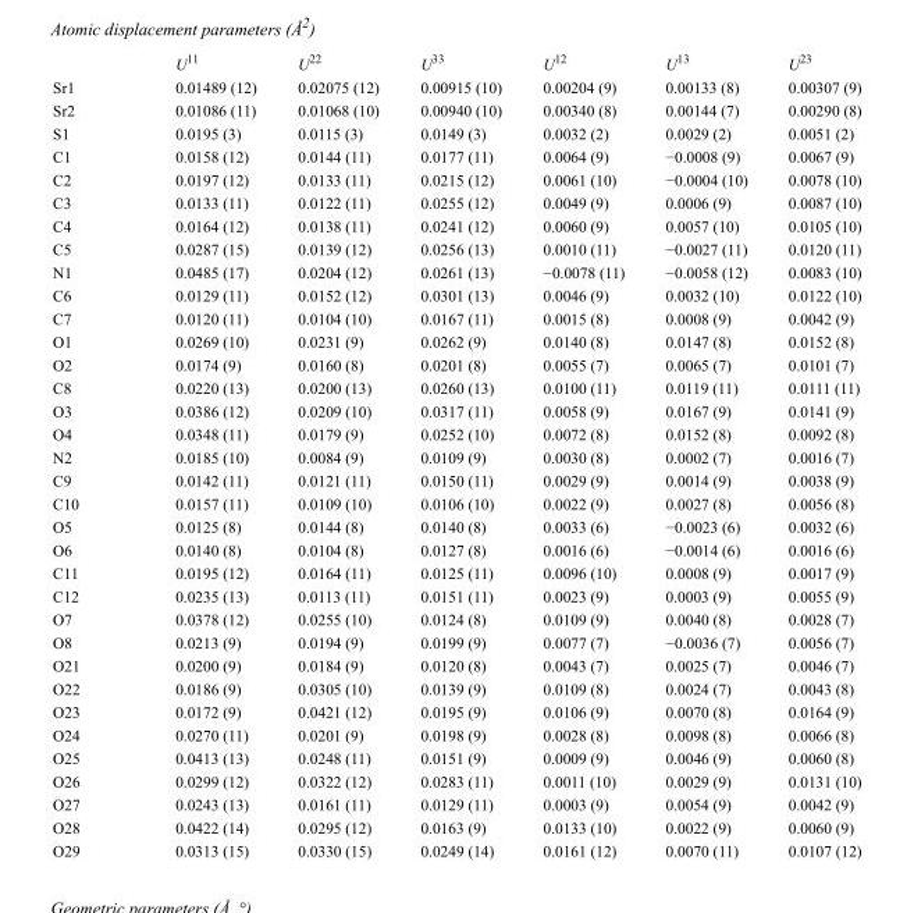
<table><thead><tr><td></td><td>U<sup>11</sup></td><td>U<sup>22</sup></td><td>U<sup>33</sup></td><td>U<sup>12</sup></td><td>U<sup>13</sup></td><td>U<sup>23</sup></td></tr></thead><tbody><tr><td>Sr1</td><td>0.01489 (12)</td><td>0.02075 (12)</td><td>0.00915 (10)</td><td>0.00204 (9)</td><td>0.00133 (8)</td><td>0.00307 (9)</td></tr><tr><td>Sr2</td><td>0.01086 (11)</td><td>0.01068 (10)</td><td>0.00940 (10)</td><td>0.00340 (8)</td><td>0.00144 (7)</td><td>0.00290 (8)</td></tr><tr><td>S1</td><td>0.0195 (3)</td><td>0.0115 (3)</td><td>0.0149 (3)</td><td>0.0032 (2)</td><td>0.0029 (2)</td><td>0.0051 (2)</td></tr><tr><td>C1</td><td>0.0158 (12)</td><td>0.0144 (11)</td><td>0.0177 (11)</td><td>0.0064 (9)</td><td>−0.0008 (9)</td><td>0.0067 (9)</td></tr><tr><td>C2</td><td>0.0197 (12)</td><td>0.0133 (11)</td><td>0.0215 (12)</td><td>0.0061 (10)</td><td>−0.0004 (10)</td><td>0.0078 (10)</td></tr><tr><td>C3</td><td>0.0133 (11)</td><td>0.0122 (11)</td><td>0.0255 (12)</td><td>0.0049 (9)</td><td>0.0006 (9)</td><td>0.0087 (10)</td></tr><tr><td>C4</td><td>0.0164 (12)</td><td>0.0138 (11)</td><td>0.0241 (12)</td><td>0.0060 (9)</td><td>0.0057 (10)</td><td>0.0105 (10)</td></tr><tr><td>C5</td><td>0.0287 (15)</td><td>0.0139 (12)</td><td>0.0256 (13)</td><td>0.0010 (11)</td><td>−0.0027 (11)</td><td>0.0120 (11)</td></tr><tr><td>N1</td><td>0.0485 (17)</td><td>0.0204 (12)</td><td>0.0261 (13)</td><td>−0.0078 (11)</td><td>−0.0058 (12)</td><td>0.0083 (10)</td></tr><tr><td>C6</td><td>0.0129 (11)</td><td>0.0152 (12)</td><td>0.0301 (13)</td><td>0.0046 (9)</td><td>0.0032 (10)</td><td>0.0122 (10)</td></tr><tr><td>C7</td><td>0.0120 (11)</td><td>0.0104 (10)</td><td>0.0167 (11)</td><td>0.0015 (8)</td><td>0.0008 (9)</td><td>0.0042 (9)</td></tr><tr><td>O1</td><td>0.0269 (10)</td><td>0.0231 (9)</td><td>0.0262 (9)</td><td>0.0140 (8)</td><td>0.0147 (8)</td><td>0.0152 (8)</td></tr><tr><td>O2</td><td>0.0174 (9)</td><td>0.0160 (8)</td><td>0.0201 (8)</td><td>0.0055 (7)</td><td>0.0065 (7)</td><td>0.0101 (7)</td></tr><tr><td>C8</td><td>0.0220 (13)</td><td>0.0200 (13)</td><td>0.0260 (13)</td><td>0.0100 (11)</td><td>0.0119 (11)</td><td>0.0111 (11)</td></tr><tr><td>O3</td><td>0.0386 (12)</td><td>0.0209 (10)</td><td>0.0317 (11)</td><td>0.0058 (9)</td><td>0.0167 (9)</td><td>0.0141 (9)</td></tr><tr><td>O4</td><td>0.0348 (11)</td><td>0.0179 (9)</td><td>0.0252 (10)</td><td>0.0072 (8)</td><td>0.0152 (8)</td><td>0.0092 (8)</td></tr><tr><td>N2</td><td>0.0185 (10)</td><td>0.0084 (9)</td><td>0.0109 (9)</td><td>0.0030 (8)</td><td>0.0002 (7)</td><td>0.0016 (7)</td></tr><tr><td>C9</td><td>0.0142 (11)</td><td>0.0121 (11)</td><td>0.0150 (11)</td><td>0.0029 (9)</td><td>0.0014 (9)</td><td>0.0038 (9)</td></tr><tr><td>C10</td><td>0.0157 (11)</td><td>0.0109 (10)</td><td>0.0106 (10)</td><td>0.0022 (9)</td><td>0.0027 (8)</td><td>0.0056 (8)</td></tr><tr><td>O5</td><td>0.0125 (8)</td><td>0.0144 (8)</td><td>0.0140 (8)</td><td>0.0033 (6)</td><td>−0.0023 (6)</td><td>0.0032 (6)</td></tr><tr><td>O6</td><td>0.0140 (8)</td><td>0.0104 (8)</td><td>0.0127 (8)</td><td>0.0016 (6)</td><td>−0.0014 (6)</td><td>0.0016 (6)</td></tr><tr><td>C11</td><td>0.0195 (12)</td><td>0.0164 (11)</td><td>0.0125 (11)</td><td>0.0096 (10)</td><td>0.0008 (9)</td><td>0.0017 (9)</td></tr><tr><td>C12</td><td>0.0235 (13)</td><td>0.0113 (11)</td><td>0.0151 (11)</td><td>0.0023 (9)</td><td>0.0003 (9)</td><td>0.0055 (9)</td></tr><tr><td>O7</td><td>0.0378 (12)</td><td>0.0255 (10)</td><td>0.0124 (8)</td><td>0.0109 (9)</td><td>0.0040 (8)</td><td>0.0028 (7)</td></tr><tr><td>O8</td><td>0.0213 (9)</td><td>0.0194 (9)</td><td>0.0199 (9)</td><td>0.0077 (7)</td><td>−0.0036 (7)</td><td>0.0056 (7)</td></tr><tr><td>O21</td><td>0.0200 (9)</td><td>0.0184 (9)</td><td>0.0120 (8)</td><td>0.0043 (7)</td><td>0.0025 (7)</td><td>0.0046 (7)</td></tr><tr><td>O22</td><td>0.0186 (9)</td><td>0.0305 (10)</td><td>0.0139 (9)</td><td>0.0109 (8)</td><td>0.0024 (7)</td><td>0.0043 (8)</td></tr><tr><td>O23</td><td>0.0172 (9)</td><td>0.0421 (12)</td><td>0.0195 (9)</td><td>0.0106 (9)</td><td>0.0070 (8)</td><td>0.0164 (9)</td></tr><tr><td>O24</td><td>0.0270 (11)</td><td>0.0201 (9)</td><td>0.0198 (9)</td><td>0.0028 (8)</td><td>0.0098 (8)</td><td>0.0066 (8)</td></tr><tr><td>O25</td><td>0.0413 (13)</td><td>0.0248 (11)</td><td>0.0151 (9)</td><td>0.0009 (9)</td><td>0.0046 (9)</td><td>0.0060 (8)</td></tr><tr><td>O26</td><td>0.0299 (12)</td><td>0.0322 (12)</td><td>0.0283 (11)</td><td>0.0011 (10)</td><td>0.0029 (9)</td><td>0.0131 (10)</td></tr><tr><td>O27</td><td>0.0243 (13)</td><td>0.0161 (11)</td><td>0.0129 (11)</td><td>0.0003 (9)</td><td>0.0054 (9)</td><td>0.0042 (9)</td></tr><tr><td>O28</td><td>0.0422 (14)</td><td>0.0295 (12)</td><td>0.0163 (9)</td><td>0.0133 (10)</td><td>0.0022 (9)</td><td>0.0060 (9)</td></tr><tr><td>O29</td><td>0.0313 (15)</td><td>0.0330 (15)</td><td>0.0249 (14)</td><td>0.0161 (12)</td><td>0.0070 (11)</td><td>0.0107 (12)</td></tr></tbody></table>